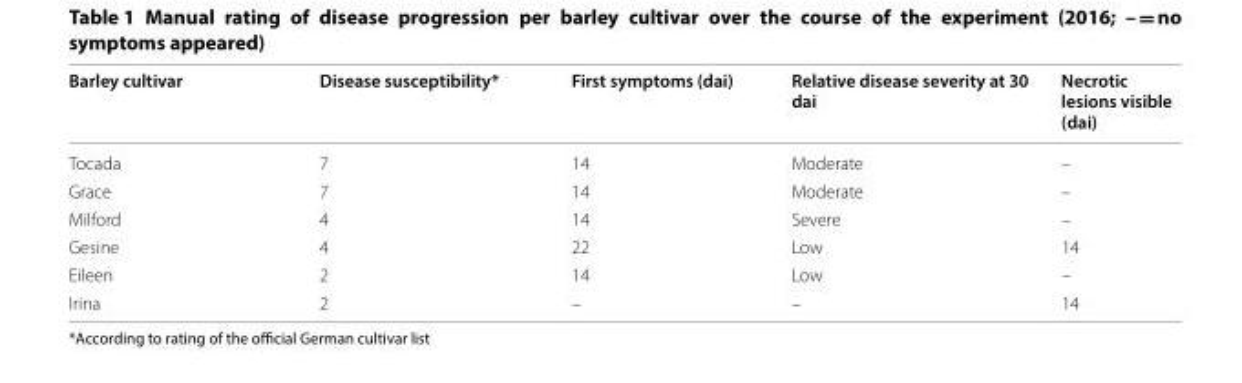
<table><thead><tr><td>Barley cultivar</td><td>Disease susceptibility*</td><td>First symptoms (dai)</td><td>Relative disease severity at 30 dai</td><td>Necrotic lesions visible (dai)</td></tr></thead><tbody><tr><td>Tocada</td><td>7</td><td>14</td><td>Moderate</td><td>–</td></tr><tr><td>Grace</td><td>7</td><td>14</td><td>Moderate</td><td>–</td></tr><tr><td>Milford</td><td>4</td><td>14</td><td>Severe</td><td>–</td></tr><tr><td>Gesine</td><td>4</td><td>22</td><td>Low</td><td>14</td></tr><tr><td>Eileen</td><td>2</td><td>14</td><td>Low</td><td>–</td></tr><tr><td>Irina</td><td>2</td><td>–</td><td>–</td><td>14</td></tr></tbody></table>